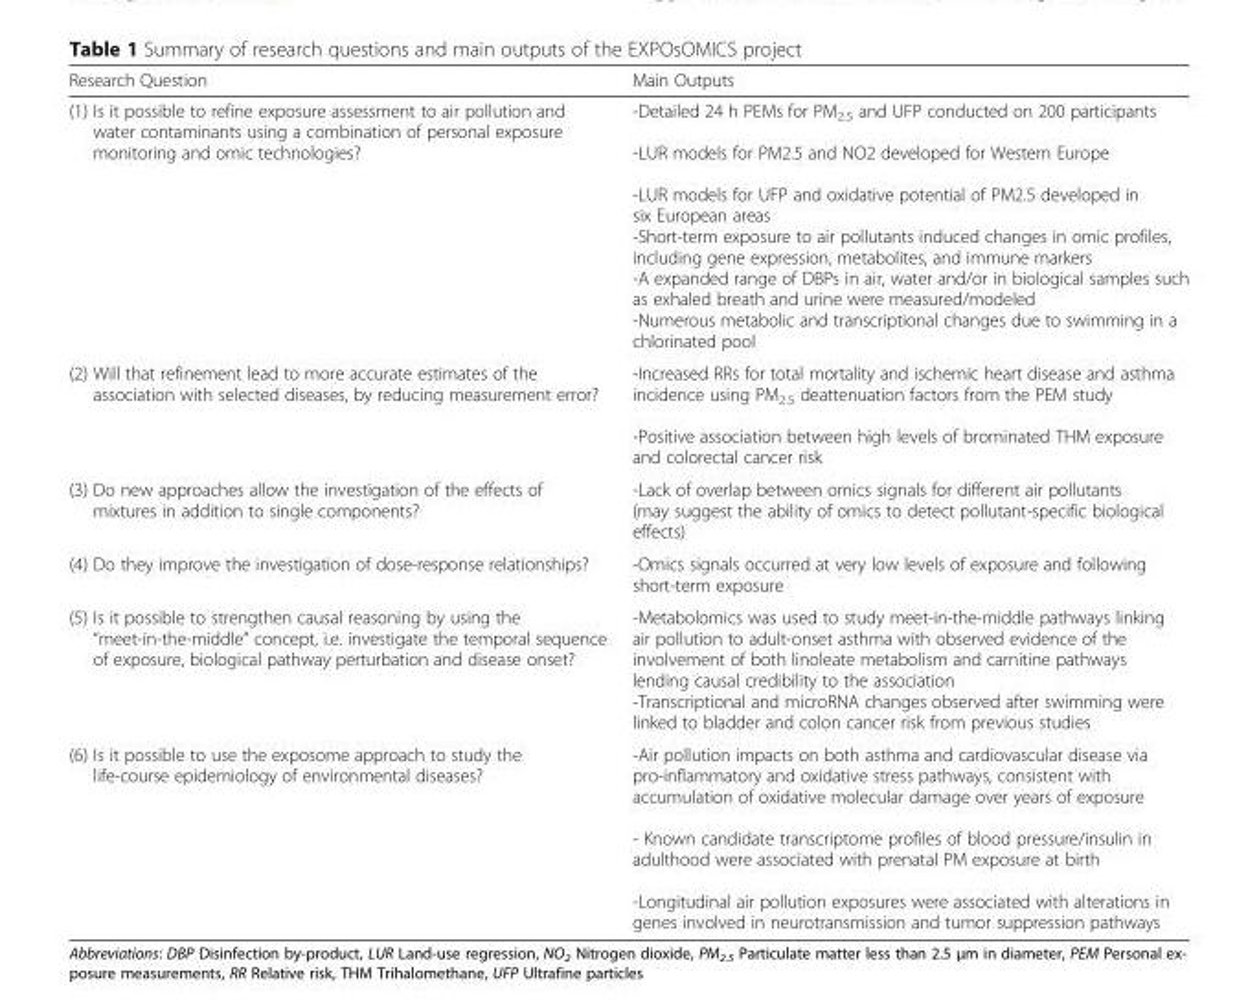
<table><thead><tr><td>Research Question</td><td>Main Outputs</td></tr></thead><tbody><tr><td>(1) Is it possible to refine exposure assessment to air pollution and water contaminants using a combination of personal exposure monitoring and omic technologies?</td><td>-Detailed 24 h PEMs for PM<sub>2.5</sub> and UFP conducted on 200 participants -LUR models for PM2.5 and NO2 developed for Western Europe -LUR models for UFP and oxidative potential of PM2.5 developed in six European areas -Short-term exposure to air pollutants induced changes in omic profiles, including gene expression, metabolites, and immune markers -A expanded range of DBPs in air, water and/or in biological samples such as exhaled breath and urine were measured/modeled -Numerous metabolic and transcriptional changes due to swimming in a chlorinated pool</td></tr><tr><td>(2) Will that refinement lead to more accurate estimates of the association with selected diseases, by reducing measurement error?</td><td>-Increased RRs for total mortality and ischemic heart disease and asthma incidence using PM<sub>2.5</sub> deattenuation factors from the PEM study -Positive association between high levels of brominated THM exposure and colorectal cancer risk</td></tr><tr><td>(3) Do new approaches allow the investigation of the effects of mixtures in addition to single components?</td><td>-Lack of overlap between omics signals for different air pollutants (may suggest the ability of omics to detect pollutant-specific biological effects)</td></tr><tr><td>(4) Do they improve the investigation of dose-response relationships?</td><td>-Omics signals occurred at very low levels of exposure and following short-term exposure</td></tr><tr><td>(5) Is it possible to strengthen causal reasoning by using the “meet-in-the-middle” concept, i.e. investigate the temporal sequence of exposure, biological pathway perturbation and disease onset?</td><td>-Metabolomics was used to study meet-in-the-middle pathways linking air pollution to adult-onset asthma with observed evidence of the involvement of both linoleate metabolism and carnitine pathways lending causal credibility to the association -Transcriptional and microRNA changes observed after swimming were linked to bladder and colon cancer risk from previous studies</td></tr><tr><td>(6) Is it possible to use the exposome approach to study the life-course epidemiology of environmental diseases?</td><td>-Air pollution impacts on both asthma and cardiovascular disease via pro-inflammatory and oxidative stress pathways, consistent with accumulation of oxidative molecular damage over years of exposure - Known candidate transcriptome profiles of blood pressure/insulin in adulthood were associated with prenatal PM exposure at birth -Longitudinal air pollution exposures were associated with alterations in genes involved in neurotransmission and tumor suppression pathways</td></tr></tbody></table>